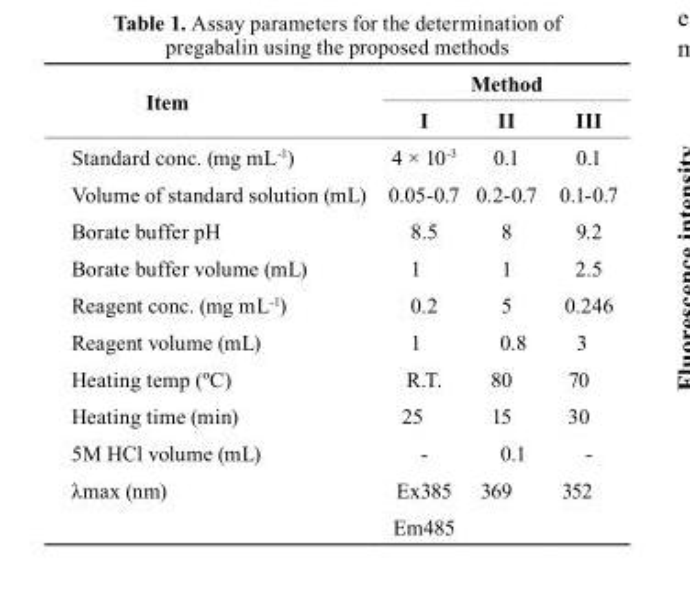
<table><thead><tr><td rowspan="2">Item</td><td colspan="3">Method</td></tr><tr><td>I</td><td>II</td><td>III</td></tr></thead><tbody><tr><td>Standard conc. (mg mL<sup>-1</sup>)</td><td>4 × 10<sup>-3</sup></td><td>0.1</td><td>0.1</td></tr><tr><td>Volume of standard solution (mL)</td><td>0.05-0.7</td><td>0.2-0.7</td><td>0.1-0.7</td></tr><tr><td>Borate buffer pH</td><td>8.5</td><td>8</td><td>9.2</td></tr><tr><td>Borate buffer volume (mL)</td><td>1</td><td>1</td><td>2.5</td></tr><tr><td>Reagent conc. (mg mL<sup>-1</sup>)</td><td>0.2</td><td>5</td><td>0.246</td></tr><tr><td>Reagent volume (mL)</td><td>1</td><td>0.8</td><td>3</td></tr><tr><td>Heating temp (ºC)</td><td>R.T.</td><td>80</td><td>70</td></tr><tr><td>Heating time (min)</td><td>25</td><td>15</td><td>30</td></tr><tr><td>5M HCl volume (mL)</td><td>-</td><td>0.1</td><td>-</td></tr><tr><td rowspan="2">λ<sub>max</sub> (nm)</td><td>Ex385</td><td>369</td><td>352</td></tr><tr><td>Em485</td><td></td><td></td></tr></tbody></table>